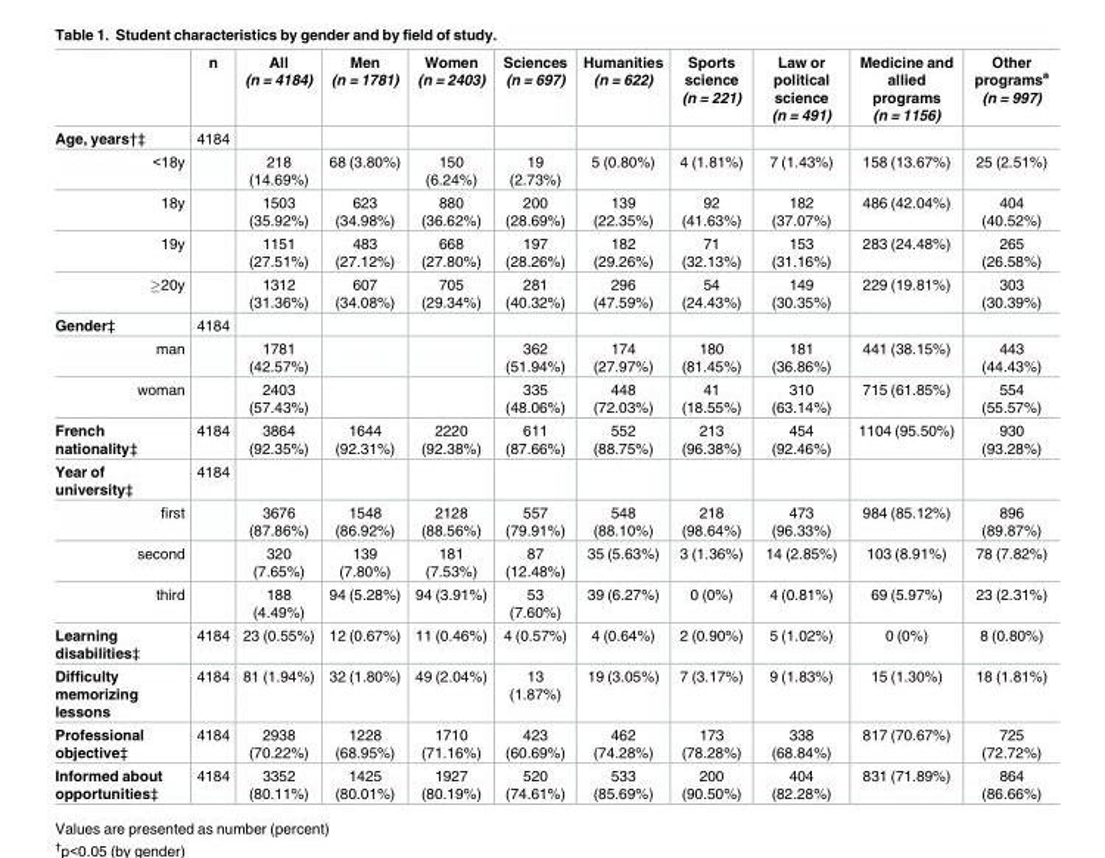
<table><thead><tr><td></td><td>n</td><td>All (n = 4184)</td><td>Men (n = 1781)</td><td>Women (n = 2403)</td><td>Sciences (n = 697)</td><td>Humanities (n = 622)</td><td>Sports science (n = 221)</td><td>Law or political science (n = 491)</td><td>Medicine and allied programs (n = 1156)</td><td>Other programs<sup>a</sup> (n = 997)</td></tr></thead><tbody><tr><td>Age, years†‡</td><td>4184</td><td></td><td></td><td></td><td></td><td></td><td></td><td></td><td></td><td></td></tr><tr><td>&lt;18y</td><td></td><td>218 (14.69%)</td><td>68 (3.80%)</td><td>150 (6.24%)</td><td>19 (2.73%)</td><td>5 (0.80%)</td><td>4 (1.81%)</td><td>7 (1.43%)</td><td>158 (13.67%)</td><td>25 (2.51%)</td></tr><tr><td>18y</td><td></td><td>1503 (35.92%)</td><td>623 (34.98%)</td><td>880 (36.62%)</td><td>200 (28.69%)</td><td>139 (22.35%)</td><td>92 (41.63%)</td><td>182 (37.07%)</td><td>486 (42.04%)</td><td>404 (40.52%)</td></tr><tr><td>19y</td><td></td><td>1151 (27.51%)</td><td>483 (27.12%)</td><td>668 (27.80%)</td><td>197 (28.26%)</td><td>182 (29.26%)</td><td>71 (32.13%)</td><td>153 (31.16%)</td><td>283 (24.48%)</td><td>265 (26.58%)</td></tr><tr><td>≥20y</td><td></td><td>1312 (31.36%)</td><td>607 (34.08%)</td><td>705 (29.34%)</td><td>281 (40.32%)</td><td>296 (47.59%)</td><td>54 (24.43%)</td><td>149 (30.35%)</td><td>229 (19.81%)</td><td>303 (30.39%)</td></tr><tr><td>Gender‡</td><td>4184</td><td></td><td></td><td></td><td></td><td></td><td></td><td></td><td></td><td></td></tr><tr><td>man</td><td></td><td>1781 (42.57%)</td><td></td><td></td><td>362 (51.94%)</td><td>174 (27.97%)</td><td>180 (81.45%)</td><td>181 (36.86%)</td><td>441 (38.15%)</td><td>443 (44.43%)</td></tr><tr><td>woman</td><td></td><td>2403 (57.43%)</td><td></td><td></td><td>335 (48.06%)</td><td>448 (72.03%)</td><td>41 (18.55%)</td><td>310 (63.14%)</td><td>715 (61.85%)</td><td>554 (55.57%)</td></tr><tr><td>French nationality‡</td><td>4184</td><td>3864 (92.35%)</td><td>1644 (92.31%)</td><td>2220 (92.38%)</td><td>611 (87.66%)</td><td>552 (88.75%)</td><td>213 (96.38%)</td><td>454 (92.46%)</td><td>1104 (95.50%)</td><td>930 (93.28%)</td></tr><tr><td>Year of university‡</td><td>4184</td><td></td><td></td><td></td><td></td><td></td><td></td><td></td><td></td><td></td></tr><tr><td>first</td><td></td><td>3676 (87.86%)</td><td>1548 (86.92%)</td><td>2128 (88.56%)</td><td>557 (79.91%)</td><td>548 (88.10%)</td><td>218 (98.64%)</td><td>473 (96.33%)</td><td>984 (85.12%)</td><td>896 (89.87%)</td></tr><tr><td>second</td><td></td><td>320 (7.65%)</td><td>139 (7.80%)</td><td>181 (7.53%)</td><td>87 (12.48%)</td><td>35 (5.63%)</td><td>3 (1.36%)</td><td>14 (2.85%)</td><td>103 (8.91%)</td><td>78 (7.82%)</td></tr><tr><td>third</td><td></td><td>188 (4.49%)</td><td>94 (5.28%)</td><td>94 (3.91%)</td><td>53 (7.60%)</td><td>39 (6.27%)</td><td>0 (0%)</td><td>4 (0.81%)</td><td>69 (5.97%)</td><td>23 (2.31%)</td></tr><tr><td>Learning disabilities‡</td><td>4184</td><td>23 (0.55%)</td><td>12 (0.67%)</td><td>11 (0.46%)</td><td>4 (0.57%)</td><td>4 (0.64%)</td><td>2 (0.90%)</td><td>5 (1.02%)</td><td>0 (0%)</td><td>8 (0.80%)</td></tr><tr><td>Difficulty memorizing lessons</td><td>4184</td><td>81 (1.94%)</td><td>32 (1.80%)</td><td>49 (2.04%)</td><td>13 (1.87%)</td><td>19 (3.05%)</td><td>7 (3.17%)</td><td>9 (1.83%)</td><td>15 (1.30%)</td><td>18 (1.81%)</td></tr><tr><td>Professional objective‡</td><td>4184</td><td>2938 (70.22%)</td><td>1228 (68.95%)</td><td>1710 (71.16%)</td><td>423 (60.69%)</td><td>462 (74.28%)</td><td>173 (78.28%)</td><td>338 (68.84%)</td><td>817 (70.67%)</td><td>725 (72.72%)</td></tr><tr><td>Informed about opportunities‡</td><td>4184</td><td>3352 (80.11%)</td><td>1425 (80.01%)</td><td>1927 (80.19%)</td><td>520 (74.61%)</td><td>533 (85.69%)</td><td>200 (90.50%)</td><td>404 (82.28%)</td><td>831 (71.89%)</td><td>864 (86.66%)</td></tr></tbody></table>